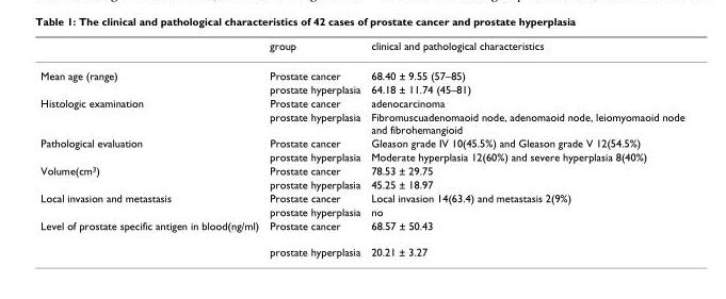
<table><thead><tr><td></td><td>group</td><td>clinical and pathological characteristics</td></tr></thead><tbody><tr><td rowspan="2">Mean age (range)</td><td>Prostate cancer</td><td>68.40 ± 9.55 (57–85)</td></tr><tr><td>prostate hyperplasia</td><td>64.18 ± 11.74 (45–81)</td></tr><tr><td rowspan="2">Histologic examination</td><td>Prostate cancer</td><td>adenocarcinoma</td></tr><tr><td>prostate hyperplasia</td><td>Fibromuscuadenomaoid node, adenomaoid node, leiomyomaoid node and fibrohemangioid</td></tr><tr><td rowspan="2">Pathological evaluation</td><td>Prostate cancer</td><td>Gleason grade IV 10(45.5%) and Gleason grade V 12(54.5%)</td></tr><tr><td>prostate hyperplasia</td><td>Moderate hyperplasia 12(60%) and severe hyperplasia 8(40%)</td></tr><tr><td rowspan="2">Volume(cm<sup>3</sup>)</td><td>Prostate cancer</td><td>78.53 ± 29.75</td></tr><tr><td>prostate hyperplasia</td><td>45.25 ± 18.97</td></tr><tr><td rowspan="2">Local invasion and metastasis</td><td>Prostate cancer</td><td>Local invasion 14(63.4) and metastasis 2(9%)</td></tr><tr><td>prostate hyperplasia</td><td>no</td></tr><tr><td rowspan="2">Level of prostate specific antigen in blood(ng/ml)</td><td>Prostate cancer</td><td>68.57 ± 50.43</td></tr><tr><td>prostate hyperplasia</td><td>20.21 ± 3.27</td></tr></tbody></table>